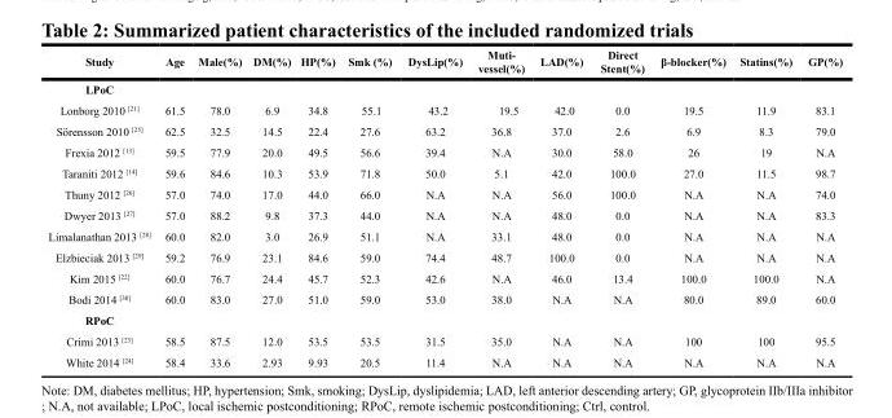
<table><thead><tr><td>Study</td><td>Age</td><td>Male(%)</td><td>DM(%)</td><td>HP(%)</td><td>Smk (%)</td><td>DysLip(%)</td><td>Muti- vessel(%)</td><td>LAD(%)</td><td>Direct Stent(%)</td><td>β-blocker(%)</td><td>Statins(%)</td><td>GP(%)</td></tr></thead><tbody><tr><td colspan="13">LPoC</td></tr><tr><td>Lonborg 2010 <sup>[21]</sup></td><td>61.5</td><td>78.0</td><td>6.9</td><td>34.8</td><td>55.1</td><td>43.2</td><td>19.5</td><td>42.0</td><td>0.0</td><td>19.5</td><td>11.9</td><td>83.1</td></tr><tr><td>Sörensson 2010 <sup>[25]</sup></td><td>62.5</td><td>32.5</td><td>14.5</td><td>22.4</td><td>27.6</td><td>63.2</td><td>36.8</td><td>37.0</td><td>2.6</td><td>6.9</td><td>8.3</td><td>79.0</td></tr><tr><td>Frexia 2012 <sup>[13]</sup></td><td>59.5</td><td>77.9</td><td>20.0</td><td>49.5</td><td>56.6</td><td>39.4</td><td>N.A</td><td>30.0</td><td>58.0</td><td>26</td><td>19</td><td>N.A</td></tr><tr><td>Taraniti 2012 <sup>[14]</sup></td><td>59.6</td><td>84.6</td><td>10.3</td><td>53.9</td><td>71.8</td><td>50.0</td><td>5.1</td><td>42.0</td><td>100.0</td><td>27.0</td><td>11.5</td><td>98.7</td></tr><tr><td>Thuny 2012 <sup>[26]</sup></td><td>57.0</td><td>74.0</td><td>17.0</td><td>44.0</td><td>66.0</td><td>N.A</td><td>N.A</td><td>56.0</td><td>100.0</td><td>N.A</td><td>N.A</td><td>74.0</td></tr><tr><td>Dwyer 2013 <sup>[27]</sup></td><td>57.0</td><td>88.2</td><td>9.8</td><td>37.3</td><td>44.0</td><td>N.A</td><td>N.A</td><td>48.0</td><td>0.0</td><td>N.A</td><td>N.A</td><td>83.3</td></tr><tr><td>Limalanathan 2013 <sup>[28]</sup></td><td>60.0</td><td>82.0</td><td>3.0</td><td>26.9</td><td>51.1</td><td>N.A</td><td>33.1</td><td>48.0</td><td>0.0</td><td>N.A</td><td>N.A</td><td>N.A</td></tr><tr><td>Elzbieciak 2013 <sup>[29]</sup></td><td>59.2</td><td>76.9</td><td>23.1</td><td>84.6</td><td>59.0</td><td>74.4</td><td>48.7</td><td>100.0</td><td>0.0</td><td>N.A</td><td>N.A</td><td>N.A</td></tr><tr><td>Kim 2015 <sup>[22]</sup></td><td>60.0</td><td>76.7</td><td>24.4</td><td>45.7</td><td>52.3</td><td>42.6</td><td>N.A</td><td>46.0</td><td>13.4</td><td>100.0</td><td>100.0</td><td>N.A</td></tr><tr><td>Bodi 2014 <sup>[30]</sup></td><td>60.0</td><td>83.0</td><td>27.0</td><td>51.0</td><td>59.0</td><td>53.0</td><td>38.0</td><td>N.A</td><td>N.A</td><td>80.0</td><td>89.0</td><td>60.0</td></tr><tr><td colspan="13">RPoC</td></tr><tr><td>Crimi 2013 <sup>[23]</sup></td><td>58.5</td><td>87.5</td><td>12.0</td><td>53.5</td><td>53.5</td><td>31.5</td><td>35.0</td><td>N.A</td><td>N.A</td><td>100</td><td>100</td><td>95.5</td></tr><tr><td>White 2014 <sup>[24]</sup></td><td>58.4</td><td>33.6</td><td>2.93</td><td>9.93</td><td>20.5</td><td>11.4</td><td>N.A</td><td>N.A</td><td>N.A</td><td>N.A</td><td>N.A</td><td>N.A</td></tr></tbody></table>